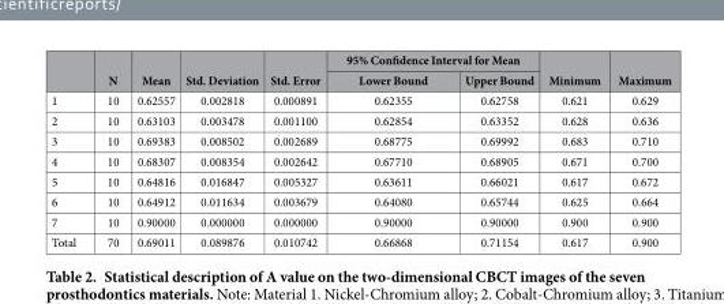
<table><thead><tr><td rowspan="2"></td><td rowspan="2">N</td><td rowspan="2">Mean</td><td rowspan="2">Std. Deviation</td><td rowspan="2">Std. Error</td><td colspan="2">95% Confidence Interval for Mean</td><td rowspan="2">Minimum</td><td rowspan="2">Maximum</td></tr><tr><td>Lower Bound</td><td>Upper Bound</td></tr></thead><tbody><tr><td>1</td><td>10</td><td>0.62557</td><td>0.002818</td><td>0.000891</td><td>0.62355</td><td>0.62758</td><td>0.621</td><td>0.629</td></tr><tr><td>2</td><td>10</td><td>0.63103</td><td>0.003478</td><td>0.001100</td><td>0.62854</td><td>0.63352</td><td>0.628</td><td>0.636</td></tr><tr><td>3</td><td>10</td><td>0.69383</td><td>0.008502</td><td>0.002689</td><td>0.68775</td><td>0.69992</td><td>0.683</td><td>0.710</td></tr><tr><td>4</td><td>10</td><td>0.68307</td><td>0.008354</td><td>0.002642</td><td>0.67710</td><td>0.68905</td><td>0.671</td><td>0.700</td></tr><tr><td>5</td><td>10</td><td>0.64816</td><td>0.016847</td><td>0.005327</td><td>0.63611</td><td>0.66021</td><td>0.617</td><td>0.672</td></tr><tr><td>6</td><td>10</td><td>0.64912</td><td>0.011634</td><td>0.003679</td><td>0.64080</td><td>0.65744</td><td>0.625</td><td>0.664</td></tr><tr><td>7</td><td>10</td><td>0.90000</td><td>0.000000</td><td>0.000000</td><td>0.90000</td><td>0.90000</td><td>0.900</td><td>0.900</td></tr><tr><td>Total</td><td>70</td><td>0.69011</td><td>0.089876</td><td>0.010742</td><td>0.66868</td><td>0.71154</td><td>0.617</td><td>0.900</td></tr></tbody></table>